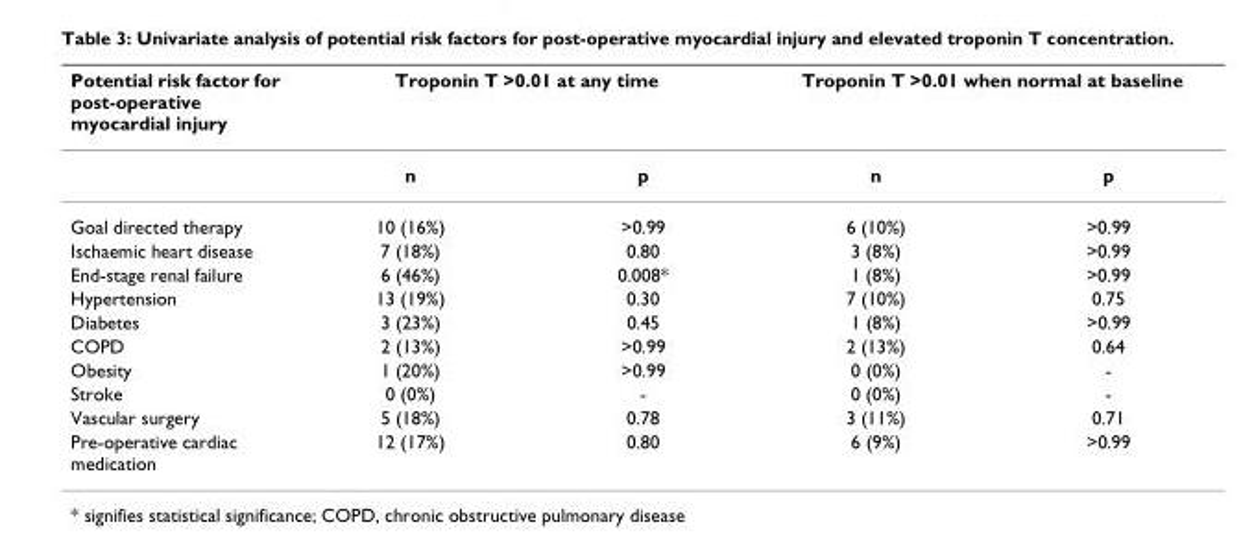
<table><thead><tr><td rowspan="2">Potential risk factor for post-operative myocardial injury</td><td colspan="2">Troponin T &gt;0.01 at any time</td><td colspan="2">Troponin T &gt;0.01 when normal at baseline</td></tr><tr><td>n</td><td>p</td><td>n</td><td>p</td></tr></thead><tbody><tr><td>Goal directed therapy</td><td>10 (16%)</td><td>&gt;0.99</td><td>6 (10%)</td><td>&gt;0.99</td></tr><tr><td>Ischaemic heart disease</td><td>7 (18%)</td><td>0.80</td><td>3 (8%)</td><td>&gt;0.99</td></tr><tr><td>End-stage renal failure</td><td>6 (46%)</td><td>0.008*</td><td>1 (8%)</td><td>&gt;0.99</td></tr><tr><td>Hypertension</td><td>13 (19%)</td><td>0.30</td><td>7 (10%)</td><td>0.75</td></tr><tr><td>Diabetes</td><td>3 (23%)</td><td>0.45</td><td>1 (8%)</td><td>&gt;0.99</td></tr><tr><td>COPD</td><td>2 (13%)</td><td>&gt;0.99</td><td>2 (13%)</td><td>0.64</td></tr><tr><td>Obesity</td><td>1 (20%)</td><td>&gt;0.99</td><td>0 (0%)</td><td>-</td></tr><tr><td>Stroke</td><td>0 (0%)</td><td>-</td><td>0 (0%)</td><td>-</td></tr><tr><td>Vascular surgery</td><td>5 (18%)</td><td>0.78</td><td>3 (11%)</td><td>0.71</td></tr><tr><td>Pre-operative cardiac medication</td><td>12 (17%)</td><td>0.80</td><td>6 (9%)</td><td>&gt;0.99</td></tr></tbody></table>